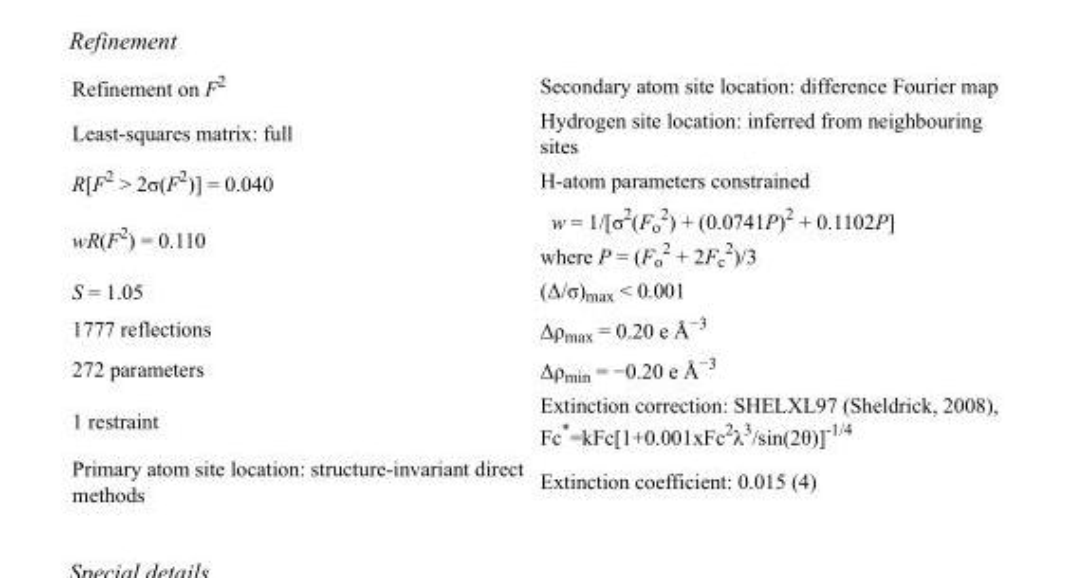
<table><tbody><tr><td>Refinement on F<sup>2</sup></td><td>Secondary atom site location: difference Fourier map</td></tr><tr><td>Least-squares matrix: full</td><td>Hydrogen site location: inferred from neighbouring sites</td></tr><tr><td>R[F<sup>2</sup> &gt; 2σ(F<sup>2</sup>)] = 0.040</td><td>H-atom parameters constrained</td></tr><tr><td>wR(F<sup>2</sup>) = 0.110</td><td>w = 1/[σ<sup>2</sup>(F<sub>o</sub> <sup>2</sup>) + (0.0741P)<sup>2</sup> + 0.1102P] where P = (F<sub>o</sub> <sup>2</sup> + 2F<sub>c</sub> <sup>2</sup>)/3</td></tr><tr><td>S = 1.05</td><td>(Δ/σ)<sub>max</sub> &lt; 0.001</td></tr><tr><td>1777 reflections</td><td>Δρ<sub>max</sub> = 0.20 e Å<sup>−3</sup></td></tr><tr><td>272 parameters</td><td>Δρ<sub>min</sub> = −0.20 e Å<sup>−3</sup></td></tr><tr><td>1 restraint</td><td>Extinction correction: SHELXL97 (Sheldrick, 2008), Fc*=kFc[1+0.001xFc<sup>2</sup>λ<sup>3</sup>/sin(2θ)]<sup>-1/4</sup></td></tr><tr><td>Primary atom site location: structure-invariant direct methods</td><td>Extinction coefficient: 0.015 (4)</td></tr></tbody></table>